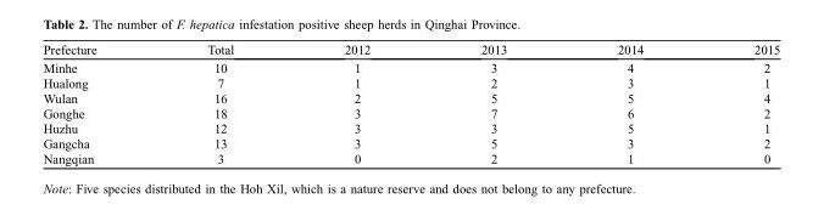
<table><thead><tr><td>Prefecture</td><td>Total</td><td>2012</td><td>2013</td><td>2014</td><td>2015</td></tr></thead><tbody><tr><td>Minhe</td><td>10</td><td>1</td><td>3</td><td>4</td><td>2</td></tr><tr><td>Hualong</td><td>7</td><td>1</td><td>2</td><td>3</td><td>1</td></tr><tr><td>Wulan</td><td>16</td><td>2</td><td>5</td><td>5</td><td>4</td></tr><tr><td>Gonghe</td><td>18</td><td>3</td><td>7</td><td>6</td><td>2</td></tr><tr><td>Huzhu</td><td>12</td><td>3</td><td>3</td><td>5</td><td>1</td></tr><tr><td>Gangcha</td><td>13</td><td>3</td><td>5</td><td>3</td><td>2</td></tr><tr><td>Nangqian</td><td>3</td><td>0</td><td>2</td><td>1</td><td>0</td></tr></tbody></table>